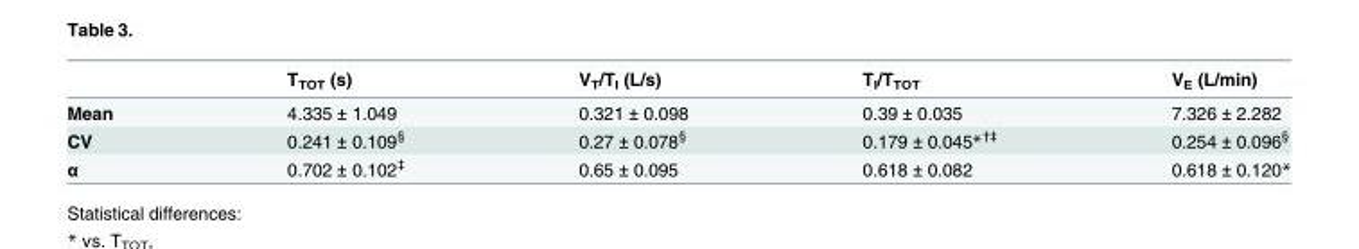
<table><thead><tr><td></td><td>T<sub>TOT</sub> (s)</td><td>V<sub>T</sub>/T<sub>I</sub> (L/s)</td><td>T<sub>I</sub>/T<sub>TOT</sub></td><td>V<sub>E</sub> (L/min)</td></tr></thead><tbody><tr><td>Mean</td><td>4.335 ± 1.049</td><td>0.321 ± 0.098</td><td>0.39 ± 0.035</td><td>7.326 ± 2.282</td></tr><tr><td>CV</td><td>0.241 ± 0.109<sup>§</sup></td><td>0.27 ± 0.078<sup>§</sup></td><td>0.179 ± 0.045*<sup>†‡</sup></td><td>0.254 ± 0.096<sup>§</sup></td></tr><tr><td>α</td><td>0.702 ± 0.102<sup>‡</sup></td><td>0.65 ± 0.095</td><td>0.618 ± 0.082</td><td>0.618 ± 0.120*</td></tr></tbody></table>